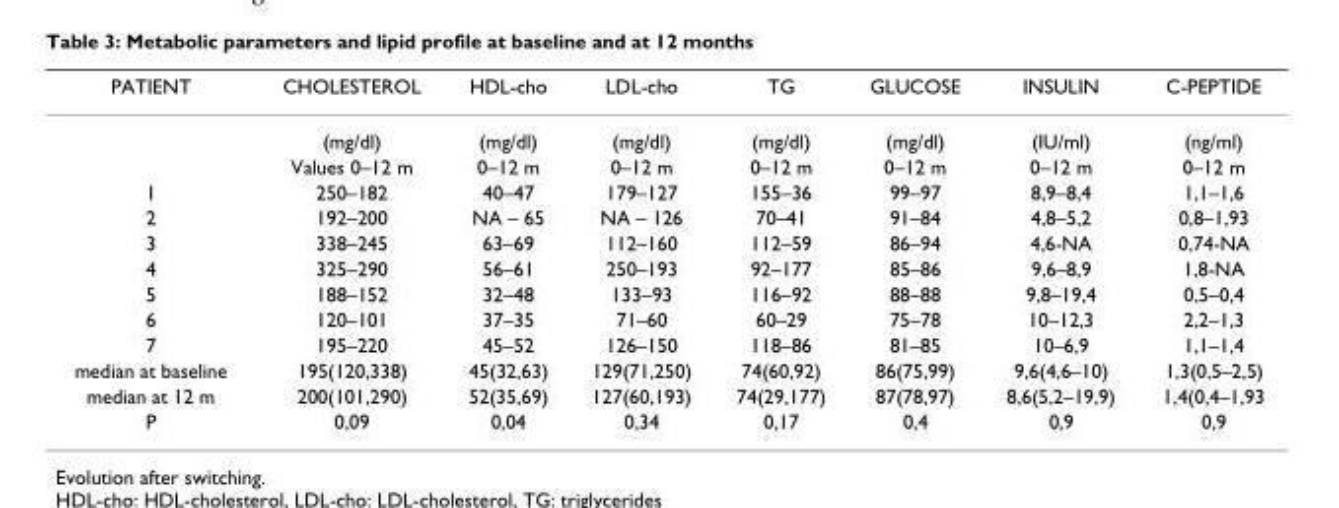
<table><thead><tr><td>PATIENT</td><td>CHOLESTEROL</td><td>HDL-cho</td><td>LDL-cho</td><td>TG</td><td>GLUCOSE</td><td>INSULIN</td><td>C-PEPTIDE</td></tr></thead><tbody><tr><td></td><td>(mg/dl)</td><td>(mg/dl)</td><td>(mg/dl)</td><td>(mg/dl)</td><td>(mg/dl)</td><td>(IU/ml)</td><td>(ng/ml)</td></tr><tr><td></td><td>Values 0–12 m</td><td>0–12 m</td><td>0–12 m</td><td>0–12 m</td><td>0–12 m</td><td>0–12 m</td><td>0–12 m</td></tr><tr><td>1</td><td>250–182</td><td>40–47</td><td>179–127</td><td>155–36</td><td>99–97</td><td>8,9–8,4</td><td>1,1–1,6</td></tr><tr><td>2</td><td>192–200</td><td>NA – 65</td><td>NA – 126</td><td>70–41</td><td>91–84</td><td>4,8–5,2</td><td>0,8–1,93</td></tr><tr><td>3</td><td>338–245</td><td>63–69</td><td>112–160</td><td>112–59</td><td>86–94</td><td>4,6-NA</td><td>0,74-NA</td></tr><tr><td>4</td><td>325–290</td><td>56–61</td><td>250–193</td><td>92–177</td><td>85–86</td><td>9,6–8,9</td><td>1,8-NA</td></tr><tr><td>5</td><td>188–152</td><td>32–48</td><td>133–93</td><td>116–92</td><td>88–88</td><td>9,8–19,4</td><td>0,5–0,4</td></tr><tr><td>6</td><td>120–101</td><td>37–35</td><td>71–60</td><td>60–29</td><td>75–78</td><td>10–12,3</td><td>2,2–1,3</td></tr><tr><td>7</td><td>195–220</td><td>45–52</td><td>126–150</td><td>118–86</td><td>81–85</td><td>10–6,9</td><td>1,1–1,4</td></tr><tr><td>median at baseline</td><td>195(120,338)</td><td>45(32,63)</td><td>129(71,250)</td><td>74(60,92)</td><td>86(75,99)</td><td>9,6(4,6–10)</td><td>1,3(0,5–2,5)</td></tr><tr><td>median at 12 m</td><td>200(101,290)</td><td>52(35,69)</td><td>127(60,193)</td><td>74(29,177)</td><td>87(78,97)</td><td>8,6(5,2–19,9)</td><td>1,4(0,4–1,93</td></tr><tr><td>P</td><td>0,09</td><td>0,04</td><td>0,34</td><td>0,17</td><td>0,4</td><td>0,9</td><td>0,9</td></tr></tbody></table>